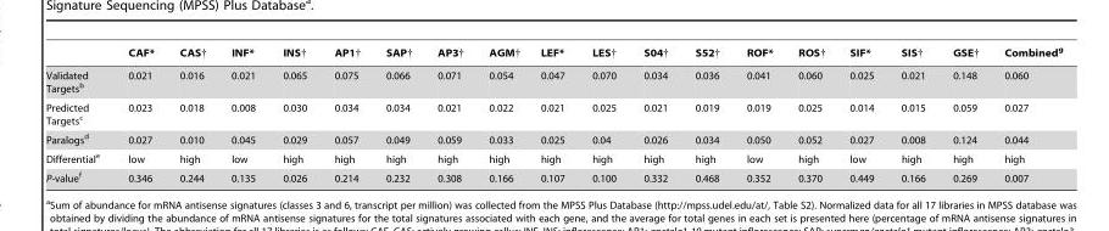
<table><thead><tr><td></td><td>CAF*</td><td>CAS†</td><td>INF*</td><td>INS†</td><td>AP1†</td><td>SAP†</td><td>AP3†</td><td>AGM†</td><td>LEF*</td><td>LES†</td><td>S04†</td><td>S52†</td><td>ROF*</td><td>ROS†</td><td>SIF*</td><td>SIS†</td><td>GSE†</td><td>Combined<sup>g</sup></td></tr></thead><tbody><tr><td>Validated Targets<sup>b</sup></td><td>0.021</td><td>0.016</td><td>0.021</td><td>0.065</td><td>0.075</td><td>0.066</td><td>0.071</td><td>0.054</td><td>0.047</td><td>0.070</td><td>0.034</td><td>0.036</td><td>0.041</td><td>0.060</td><td>0.025</td><td>0.021</td><td>0.148</td><td>0.060</td></tr><tr><td>Predicted Targets<sup>c</sup></td><td>0.023</td><td>0.018</td><td>0.008</td><td>0.030</td><td>0.034</td><td>0.034</td><td>0.021</td><td>0.022</td><td>0.021</td><td>0.025</td><td>0.021</td><td>0.019</td><td>0.019</td><td>0.025</td><td>0.014</td><td>0.015</td><td>0.059</td><td>0.027</td></tr><tr><td>Paralogs<sup>d</sup></td><td>0.027</td><td>0.010</td><td>0.045</td><td>0.029</td><td>0.057</td><td>0.049</td><td>0.059</td><td>0.033</td><td>0.025</td><td>0.04</td><td>0.026</td><td>0.034</td><td>0.050</td><td>0.052</td><td>0.027</td><td>0.008</td><td>0.124</td><td>0.044</td></tr><tr><td>Differential<sup>e</sup></td><td>low</td><td>high</td><td>low</td><td>high</td><td>high</td><td>high</td><td>high</td><td>high</td><td>high</td><td>high</td><td>high</td><td>high</td><td>low</td><td>high</td><td>low</td><td>high</td><td>high</td><td>high</td></tr><tr><td>P-value<sup>f</sup></td><td>0.346</td><td>0.244</td><td>0.135</td><td>0.026</td><td>0.214</td><td>0.232</td><td>0.308</td><td>0.166</td><td>0.107</td><td>0.100</td><td>0.332</td><td>0.468</td><td>0.352</td><td>0.370</td><td>0.449</td><td>0.166</td><td>0.269</td><td>0.007</td></tr></tbody></table>